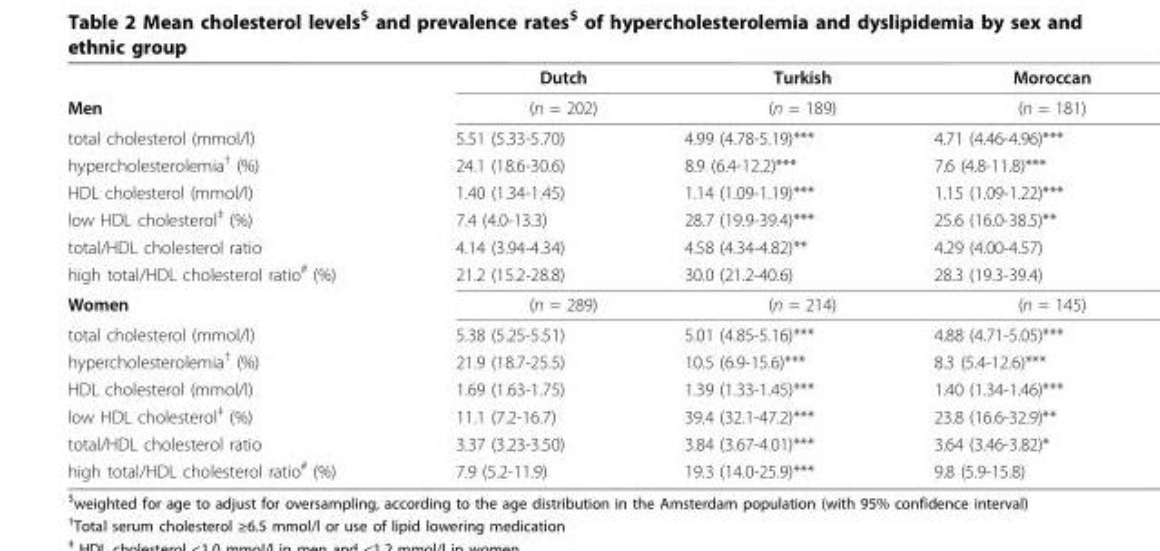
<table><thead><tr><td></td><td>Dutch</td><td>Turkish</td><td>Moroccan</td></tr></thead><tbody><tr><td>Men</td><td>(n = 202)</td><td>(n = 189)</td><td>(n = 181)</td></tr><tr><td>total cholesterol (mmol/l)</td><td>5.51 (5.33-5.70)</td><td>4.99 (4.78-5.19)***</td><td>4.71 (4.46-4.96)***</td></tr><tr><td>hypercholesterolemia<sup>†</sup> (%)</td><td>24.1 (18.6-30.6)</td><td>8.9 (6.4-12.2)***</td><td>7.6 (4.8-11.8)***</td></tr><tr><td>HDL cholesterol (mmol/l)</td><td>1.40 (1.34-1.45)</td><td>1.14 (1.09-1.19)***</td><td>1.15 (1.09-1.22)***</td></tr><tr><td>low HDL cholesterol<sup>‡</sup> (%)</td><td>7.4 (4.0-13.3)</td><td>28.7 (19.9-39.4)***</td><td>25.6 (16.0-38.5)**</td></tr><tr><td>total/HDL cholesterol ratio</td><td>4.14 (3.94-4.34)</td><td>4.58 (4.34-4.82)**</td><td>4.29 (4.00-4.57)</td></tr><tr><td>high total/HDL cholesterol ratio<sup>#</sup> (%)</td><td>21.2 (15.2-28.8)</td><td>30.0 (21.2-40.6)</td><td>28.3 (19.3-39.4)</td></tr><tr><td>Women</td><td>(n = 289)</td><td>(n = 214)</td><td>(n = 145)</td></tr><tr><td>total cholesterol (mmol/l)</td><td>5.38 (5.25-5.51)</td><td>5.01 (4.85-5.16)***</td><td>4.88 (4.71-5.05)***</td></tr><tr><td>hypercholesterolemia<sup>†</sup> (%)</td><td>21.9 (18.7-25.5)</td><td>10.5 (6.9-15.6)***</td><td>8.3 (5.4-12.6)***</td></tr><tr><td>HDL cholesterol (mmol/l)</td><td>1.69 (1.63-1.75)</td><td>1.39 (1.33-1.45)***</td><td>1.40 (1.34-1.46)***</td></tr><tr><td>low HDL cholesterol<sup>‡</sup> (%)</td><td>11.1 (7.2-16.7)</td><td>39.4 (32.1-47.2)***</td><td>23.8 (16.6-32.9)**</td></tr><tr><td>total/HDL cholesterol ratio</td><td>3.37 (3.23-3.50)</td><td>3.84 (3.67-4.01)***</td><td>3.64 (3.46-3.82)*</td></tr><tr><td>high total/HDL cholesterol ratio<sup>#</sup> (%)</td><td>7.9 (5.2-11.9)</td><td>19.3 (14.0-25.9)***</td><td>9.8 (5.9-15.8)</td></tr></tbody></table>